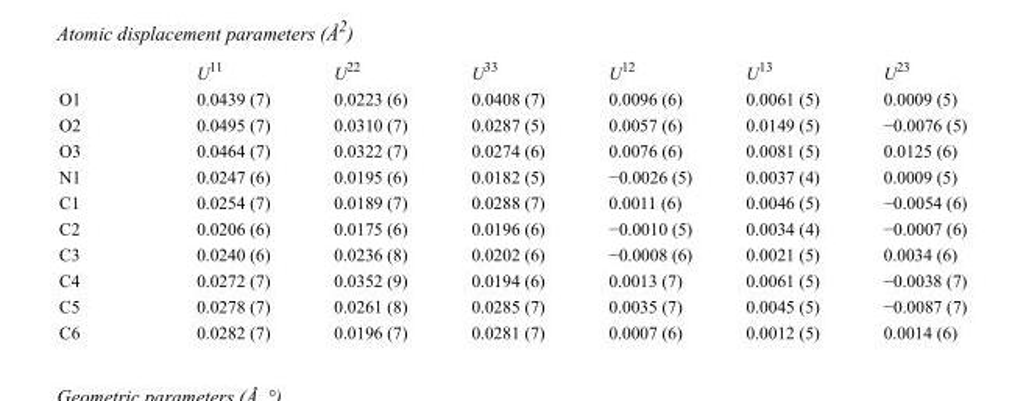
<table><thead><tr><td></td><td>U<sup>11</sup></td><td>U<sup>22</sup></td><td>U<sup>33</sup></td><td>U<sup>12</sup></td><td>U<sup>13</sup></td><td>U<sup>23</sup></td></tr></thead><tbody><tr><td>O1</td><td>0.0439 (7)</td><td>0.0223 (6)</td><td>0.0408 (7)</td><td>0.0096 (6)</td><td>0.0061 (5)</td><td>0.0009 (5)</td></tr><tr><td>O2</td><td>0.0495 (7)</td><td>0.0310 (7)</td><td>0.0287 (5)</td><td>0.0057 (6)</td><td>0.0149 (5)</td><td>−0.0076 (5)</td></tr><tr><td>O3</td><td>0.0464 (7)</td><td>0.0322 (7)</td><td>0.0274 (6)</td><td>0.0076 (6)</td><td>0.0081 (5)</td><td>0.0125 (6)</td></tr><tr><td>N1</td><td>0.0247 (6)</td><td>0.0195 (6)</td><td>0.0182 (5)</td><td>−0.0026 (5)</td><td>0.0037 (4)</td><td>0.0009 (5)</td></tr><tr><td>C1</td><td>0.0254 (7)</td><td>0.0189 (7)</td><td>0.0288 (7)</td><td>0.0011 (6)</td><td>0.0046 (5)</td><td>−0.0054 (6)</td></tr><tr><td>C2</td><td>0.0206 (6)</td><td>0.0175 (6)</td><td>0.0196 (6)</td><td>−0.0010 (5)</td><td>0.0034 (4)</td><td>−0.0007 (6)</td></tr><tr><td>C3</td><td>0.0240 (6)</td><td>0.0236 (8)</td><td>0.0202 (6)</td><td>−0.0008 (6)</td><td>0.0021 (5)</td><td>0.0034 (6)</td></tr><tr><td>C4</td><td>0.0272 (7)</td><td>0.0352 (9)</td><td>0.0194 (6)</td><td>0.0013 (7)</td><td>0.0061 (5)</td><td>−0.0038 (7)</td></tr><tr><td>C5</td><td>0.0278 (7)</td><td>0.0261 (8)</td><td>0.0285 (7)</td><td>0.0035 (7)</td><td>0.0045 (5)</td><td>−0.0087 (7)</td></tr><tr><td>C6</td><td>0.0282 (7)</td><td>0.0196 (7)</td><td>0.0281 (7)</td><td>0.0007 (6)</td><td>0.0012 (5)</td><td>0.0014 (6)</td></tr></tbody></table>